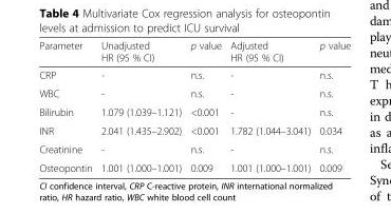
<table><thead><tr><td>Parameter</td><td>Unadjusted HR (95 % CI)</td><td>p value</td><td>Adjusted HR (95 % CI)</td><td>p value</td></tr></thead><tbody><tr><td>CRP</td><td>-</td><td>n.s.</td><td>-</td><td>n.s.</td></tr><tr><td>WBC</td><td>-</td><td>n.s.</td><td>-</td><td>n.s.</td></tr><tr><td>Bilirubin</td><td>1.079 (1.039–1.121)</td><td>&lt;0.001</td><td>-</td><td>n.s.</td></tr><tr><td>INR</td><td>2.041 (1.435–2.902)</td><td>&lt;0.001</td><td>1.782 (1.044–3.041)</td><td>0.034</td></tr><tr><td>Creatinine</td><td>-</td><td>n.s.</td><td>-</td><td>n.s.</td></tr><tr><td>Osteopontin</td><td>1.001 (1.000–1.001)</td><td>0.009</td><td>1.001 (1.000–1.001)</td><td>0.009</td></tr></tbody></table>